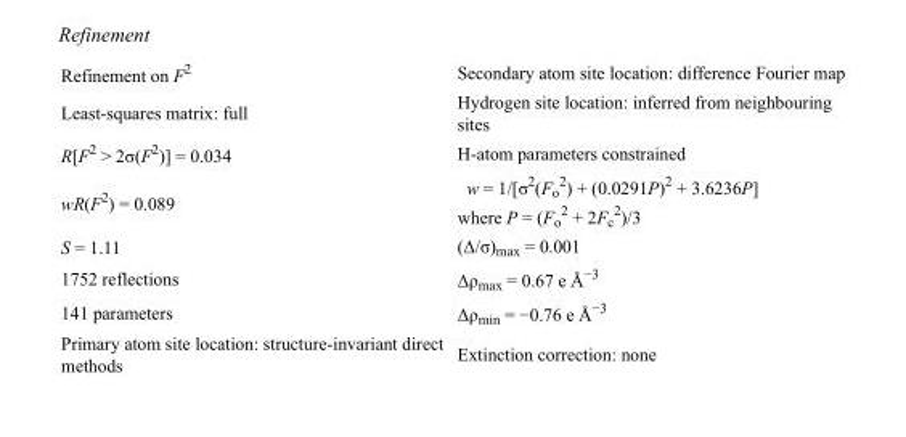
<table><tbody><tr><td>Refinement on F<sup>2</sup></td><td>Secondary atom site location: difference Fourier map</td></tr><tr><td>Least-squares matrix: full</td><td>Hydrogen site location: inferred from neighbouring sites</td></tr><tr><td>R[F<sup>2</sup> &gt; 2σ(F<sup>2</sup>)] = 0.034</td><td>H-atom parameters constrained</td></tr><tr><td>wR(F<sup>2</sup>) = 0.089</td><td>w = 1/[σ<sup>2</sup>(F<sub>o</sub> <sup>2</sup>) + (0.0291P)<sup>2</sup> + 3.6236P] where P = (F<sub>o</sub> <sup>2</sup> + 2F<sub>c</sub> <sup>2</sup>)/3</td></tr><tr><td>S = 1.11</td><td>(Δ/σ)<sub>max</sub> = 0.001</td></tr><tr><td>1752 reflections</td><td>Δρ<sub>max</sub> = 0.67 e Å<sup>−3</sup></td></tr><tr><td>141 parameters</td><td>Δρ<sub>min</sub> = −0.76 e Å<sup>−3</sup></td></tr><tr><td>Primary atom site location: structure-invariant direct methods</td><td>Extinction correction: none</td></tr></tbody></table>